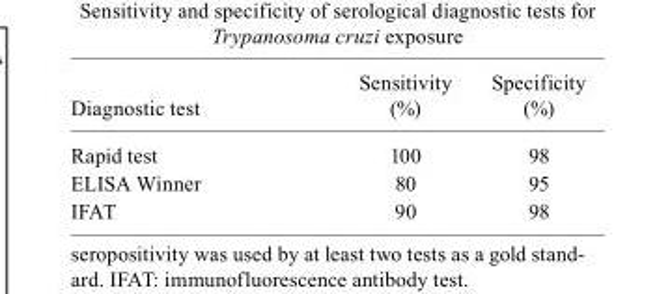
<table><thead><tr><td>Diagnostic test</td><td>Sensitivity (%)</td><td>Specificity (%)</td></tr></thead><tbody><tr><td>Rapid test</td><td>100</td><td>98</td></tr><tr><td>ELISA Winner</td><td>80</td><td>95</td></tr><tr><td>IFAT</td><td>90</td><td>98</td></tr></tbody></table>